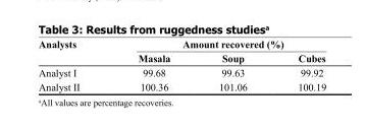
<table><thead><tr><td rowspan="2">Analysts</td><td colspan="3">Amount recovered (%)</td></tr><tr><td>Masala</td><td>Soup</td><td>Cubes</td></tr></thead><tbody><tr><td>Analyst I</td><td>99.68</td><td>99.63</td><td>99.92</td></tr><tr><td>Analyst II</td><td>100.36</td><td>101.06</td><td>100.19</td></tr></tbody></table>